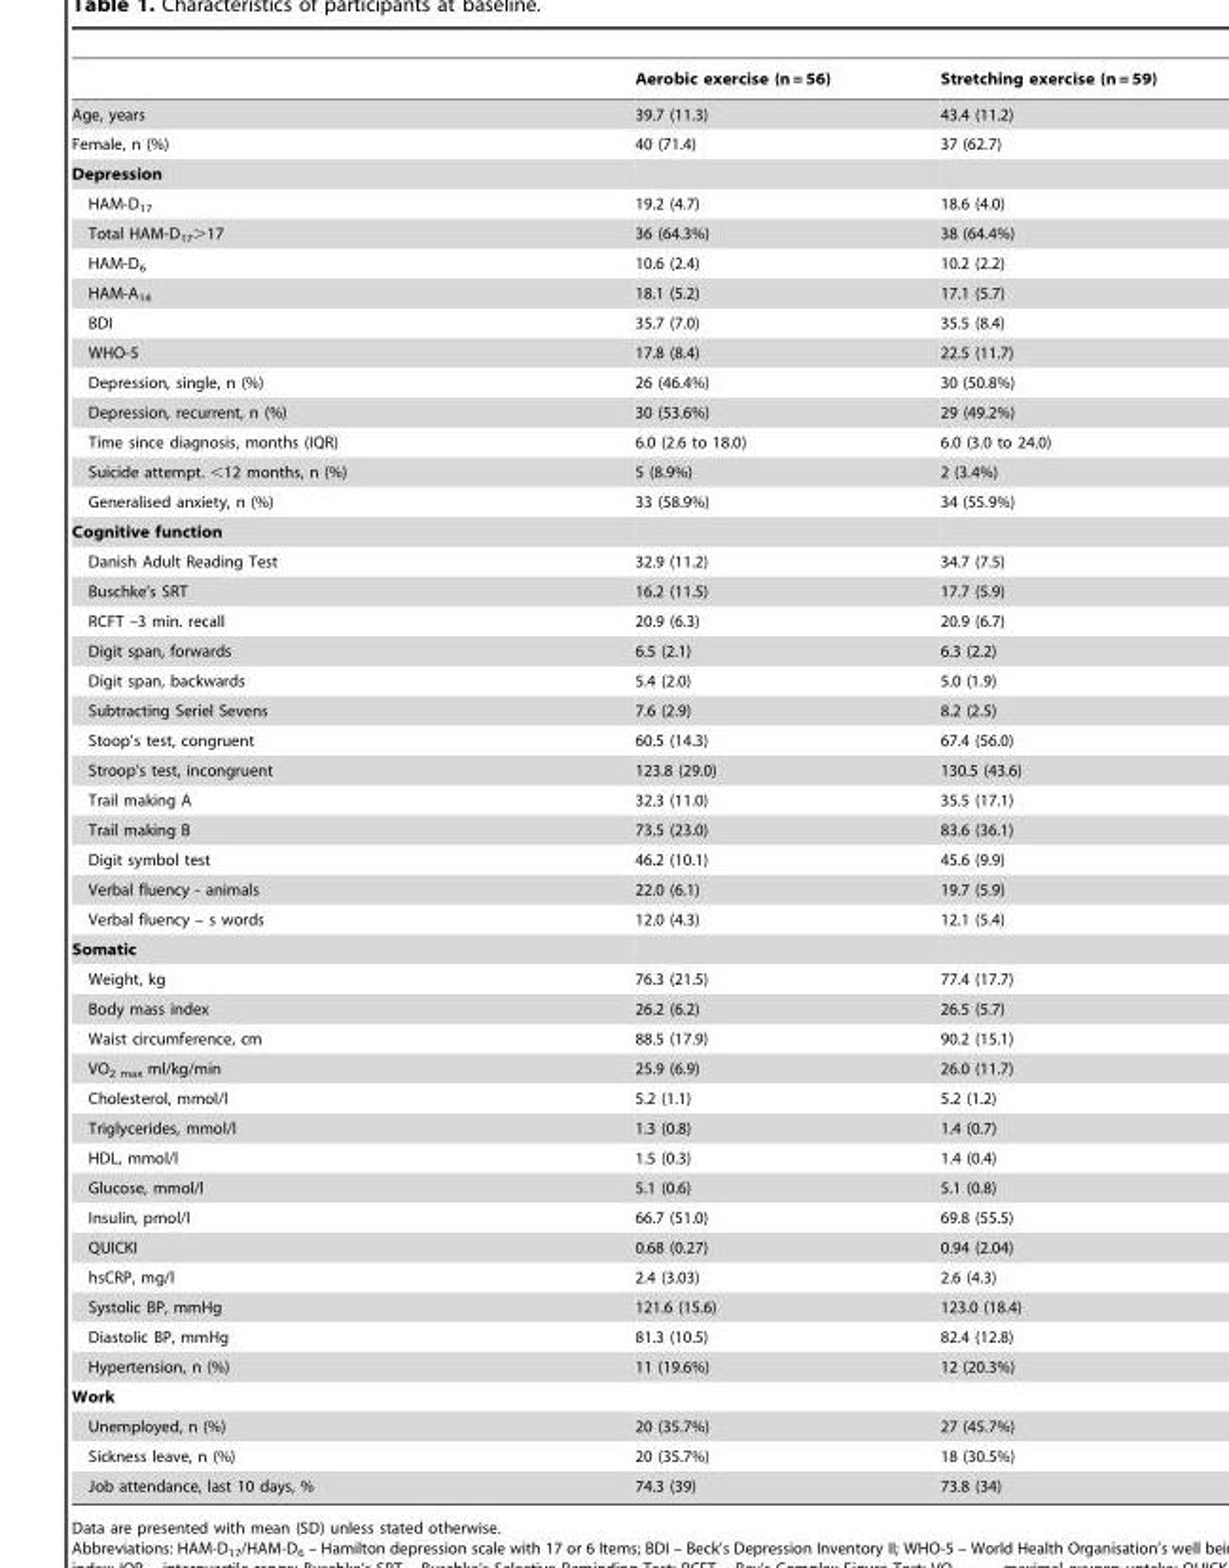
<table><thead><tr><td></td><td>Aerobic exercise (n = 56)</td><td>Stretching exercise (n = 59)</td></tr></thead><tbody><tr><td>Age, years</td><td>39.7 (11.3)</td><td>43.4 (11.2)</td></tr><tr><td>Female, n (%)</td><td>40 (71.4)</td><td>37 (62.7)</td></tr><tr><td colspan="3">Depression</td></tr><tr><td>HAM-D<sub>17</sub></td><td>19.2 (4.7)</td><td>18.6 (4.0)</td></tr><tr><td>Total HAM-D<sub>17</sub>&gt;17</td><td>36 (64.3%)</td><td>38 (64.4%)</td></tr><tr><td>HAM-D<sub>6</sub></td><td>10.6 (2.4)</td><td>10.2 (2.2)</td></tr><tr><td>HAM-A<sub>14</sub></td><td>18.1 (5.2)</td><td>17.1 (5.7)</td></tr><tr><td>BDI</td><td>35.7 (7.0)</td><td>35.5 (8.4)</td></tr><tr><td>WHO-5</td><td>17.8 (8.4)</td><td>22.5 (11.7)</td></tr><tr><td>Depression, single, n (%)</td><td>26 (46.4%)</td><td>30 (50.8%)</td></tr><tr><td>Depression, recurrent, n (%)</td><td>30 (53.6%)</td><td>29 (49.2%)</td></tr><tr><td>Time since diagnosis, months (IQR)</td><td>6.0 (2.6 to 18.0)</td><td>6.0 (3.0 to 24.0)</td></tr><tr><td>Suicide attempt. &lt;12 months, n (%)</td><td>5 (8.9%)</td><td>2 (3.4%)</td></tr><tr><td>Generalised anxiety, n (%)</td><td>33 (58.9%)</td><td>34 (55.9%)</td></tr><tr><td colspan="3">Cognitive function</td></tr><tr><td>Danish Adult Reading Test</td><td>32.9 (11.2)</td><td>34.7 (7.5)</td></tr><tr><td>Buschke’s SRT</td><td>16.2 (11.5)</td><td>17.7 (5.9)</td></tr><tr><td>RCFT –3 min. recall</td><td>20.9 (6.3)</td><td>20.9 (6.7)</td></tr><tr><td>Digit span, forwards</td><td>6.5 (2.1)</td><td>6.3 (2.2)</td></tr><tr><td>Digit span, backwards</td><td>5.4 (2.0)</td><td>5.0 (1.9)</td></tr><tr><td>Subtracting Seriel Sevens</td><td>7.6 (2.9)</td><td>8.2 (2.5)</td></tr><tr><td>Stoop’s test, congruent</td><td>60.5 (14.3)</td><td>67.4 (56.0)</td></tr><tr><td>Stroop’s test, incongruent</td><td>123.8 (29.0)</td><td>130.5 (43.6)</td></tr><tr><td>Trail making A</td><td>32.3 (11.0)</td><td>35.5 (17.1)</td></tr><tr><td>Trail making B</td><td>73.5 (23.0)</td><td>83.6 (36.1)</td></tr><tr><td>Digit symbol test</td><td>46.2 (10.1)</td><td>45.6 (9.9)</td></tr><tr><td>Verbal fluency - animals</td><td>22.0 (6.1)</td><td>19.7 (5.9)</td></tr><tr><td>Verbal fluency – s words</td><td>12.0 (4.3)</td><td>12.1 (5.4)</td></tr><tr><td colspan="3">Somatic</td></tr><tr><td>Weight, kg</td><td>76.3 (21.5)</td><td>77.4 (17.7)</td></tr><tr><td>Body mass index</td><td>26.2 (6.2)</td><td>26.5 (5.7)</td></tr><tr><td>Waist circumference, cm</td><td>88.5 (17.9)</td><td>90.2 (15.1)</td></tr><tr><td>VO<sub>2 max</sub> ml/kg/min</td><td>25.9 (6.9)</td><td>26.0 (11.7)</td></tr><tr><td>Cholesterol, mmol/l</td><td>5.2 (1.1)</td><td>5.2 (1.2)</td></tr><tr><td>Triglycerides, mmol/l</td><td>1.3 (0.8)</td><td>1.4 (0.7)</td></tr><tr><td>HDL, mmol/l</td><td>1.5 (0.3)</td><td>1.4 (0.4)</td></tr><tr><td>Glucose, mmol/l</td><td>5.1 (0.6)</td><td>5.1 (0.8)</td></tr><tr><td>Insulin, pmol/l</td><td>66.7 (51.0)</td><td>69.8 (55.5)</td></tr><tr><td>QUICKI</td><td>0.68 (0.27)</td><td>0.94 (2.04)</td></tr><tr><td>hsCRP, mg/l</td><td>2.4 (3.03)</td><td>2.6 (4.3)</td></tr><tr><td>Systolic BP, mmHg</td><td>121.6 (15.6)</td><td>123.0 (18.4)</td></tr><tr><td>Diastolic BP, mmHg</td><td>81.3 (10.5)</td><td>82.4 (12.8)</td></tr><tr><td>Hypertension, n (%)</td><td>11 (19.6%)</td><td>12 (20.3%)</td></tr><tr><td colspan="3">Work</td></tr><tr><td>Unemployed, n (%)</td><td>20 (35.7%)</td><td>27 (45.7%)</td></tr><tr><td>Sickness leave, n (%)</td><td>20 (35.7%)</td><td>18 (30.5%)</td></tr><tr><td>Job attendance, last 10 days, %</td><td>74.3 (39)</td><td>73.8 (34)</td></tr></tbody></table>